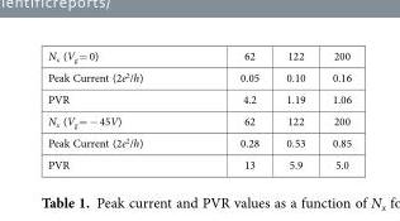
<table><tbody><tr><td>N<sub>x</sub> (V<sub>g</sub> = 0)</td><td>62</td><td>122</td><td>200</td></tr><tr><td>Peak Current (2e<sup>2</sup>/h)</td><td>0.05</td><td>0.10</td><td>0.16</td></tr><tr><td>PVR</td><td>4.2</td><td>1.19</td><td>1.06</td></tr><tr><td>N<sub>x</sub> (V<sub>g</sub> = − 45V)</td><td>62</td><td>122</td><td>200</td></tr><tr><td>Peak Current (2e<sup>2</sup>/h)</td><td>0.28</td><td>0.53</td><td>0.85</td></tr><tr><td>PVR</td><td>13</td><td>5.9</td><td>5.0</td></tr></tbody></table>